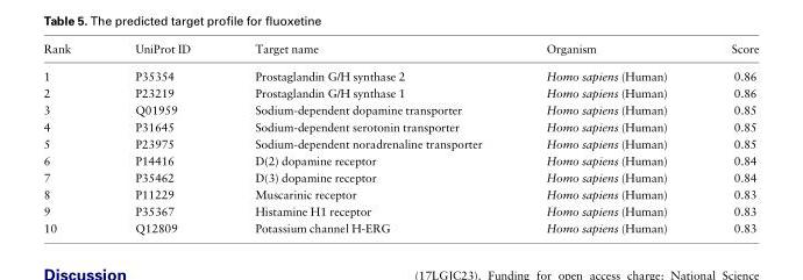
<table><thead><tr><td>Rank</td><td>UniProt ID</td><td>Target name</td><td>Organism</td><td>Score</td></tr></thead><tbody><tr><td>1</td><td>P35354</td><td>Prostaglandin G/H synthase 2</td><td>Homo sapiens (Human)</td><td>0.86</td></tr><tr><td>2</td><td>P23219</td><td>Prostaglandin G/H synthase 1</td><td>Homo sapiens (Human)</td><td>0.86</td></tr><tr><td>3</td><td>Q01959</td><td>Sodium-dependent dopamine transporter</td><td>Homo sapiens (Human)</td><td>0.85</td></tr><tr><td>4</td><td>P31645</td><td>Sodium-dependent serotonin transporter</td><td>Homo sapiens (Human)</td><td>0.85</td></tr><tr><td>5</td><td>P23975</td><td>Sodium-dependent noradrenaline transporter</td><td>Homo sapiens (Human)</td><td>0.85</td></tr><tr><td>6</td><td>P14416</td><td>D(2) dopamine receptor</td><td>Homo sapiens (Human)</td><td>0.84</td></tr><tr><td>7</td><td>P35462</td><td>D(3) dopamine receptor</td><td>Homo sapiens (Human)</td><td>0.84</td></tr><tr><td>8</td><td>P11229</td><td>Muscarinic receptor</td><td>Homo sapiens (Human)</td><td>0.83</td></tr><tr><td>9</td><td>P35367</td><td>Histamine H1 receptor</td><td>Homo sapiens (Human)</td><td>0.83</td></tr><tr><td>10</td><td>Q12809</td><td>Potassium channel H-ERG</td><td>Homo sapiens (Human)</td><td>0.83</td></tr></tbody></table>